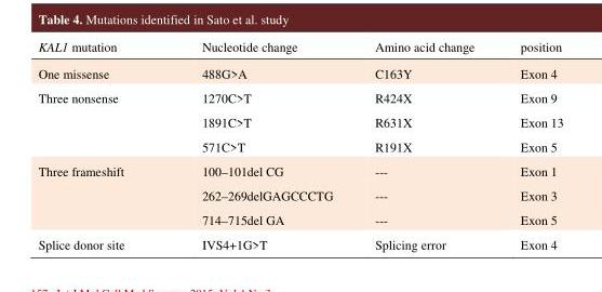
<table><thead><tr><td>KAL1 mutation</td><td>Nucleotide change</td><td>Amino acid change</td><td>position</td></tr></thead><tbody><tr><td>One missense</td><td>488G&gt;A</td><td>C163Y</td><td>Exon 4</td></tr><tr><td rowspan="3">Three nonsense</td><td>1270C&gt;T</td><td>R424X</td><td>Exon 9</td></tr><tr><td>1891C&gt;T</td><td>R631X</td><td>Exon 13</td></tr><tr><td>571C&gt;T</td><td>R191X</td><td>Exon 5</td></tr><tr><td rowspan="3">Three frameshift</td><td>100–101del CG</td><td>---</td><td>Exon 1</td></tr><tr><td>262–269delGAGCCCTG</td><td>---</td><td>Exon 3</td></tr><tr><td>714–715del GA</td><td>---</td><td>Exon 5</td></tr><tr><td>Splice donor site</td><td>IVS4+1G&gt;T</td><td>Splicing error</td><td>Exon 4</td></tr></tbody></table>